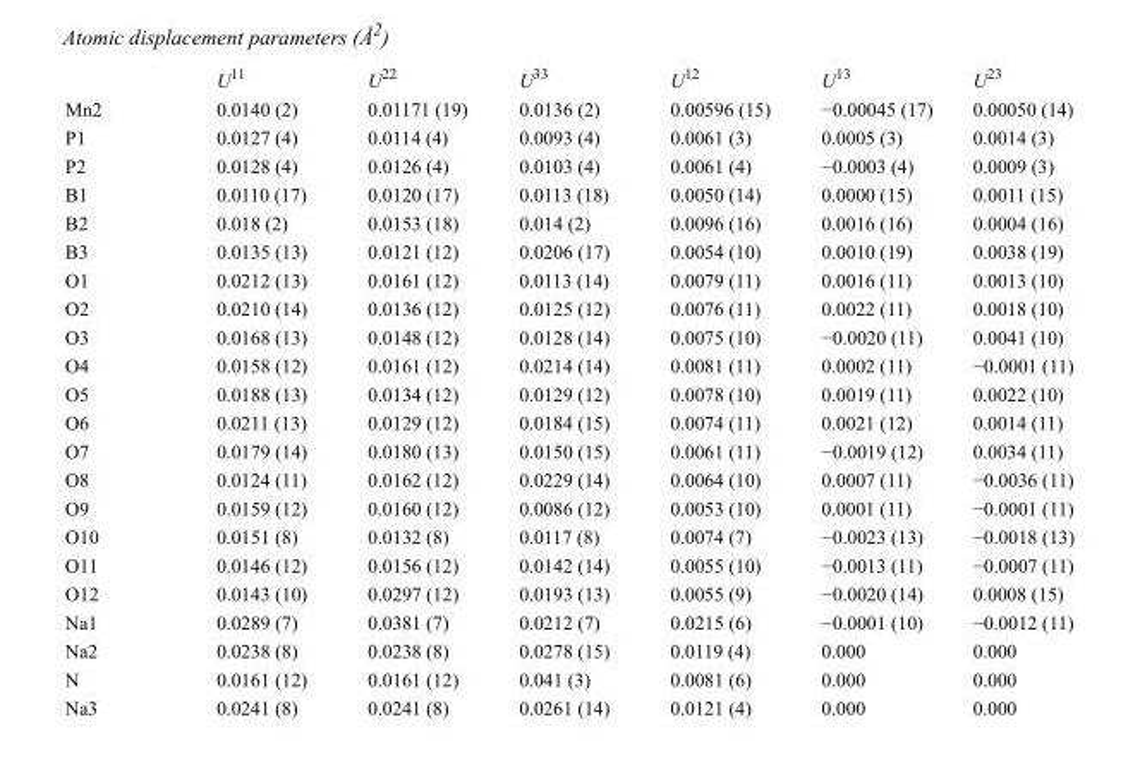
<table><thead><tr><td></td><td>U<sup>11</sup></td><td>U<sup>22</sup></td><td>U<sup>33</sup></td><td>U<sup>12</sup></td><td>U<sup>13</sup></td><td>U<sup>23</sup></td></tr></thead><tbody><tr><td>Mn2</td><td>0.0140 (2)</td><td>0.01171 (19)</td><td>0.0136 (2)</td><td>0.00596 (15)</td><td>−0.00045 (17)</td><td>0.00050 (14)</td></tr><tr><td>P1</td><td>0.0127 (4)</td><td>0.0114 (4)</td><td>0.0093 (4)</td><td>0.0061 (3)</td><td>0.0005 (3)</td><td>0.0014 (3)</td></tr><tr><td>P2</td><td>0.0128 (4)</td><td>0.0126 (4)</td><td>0.0103 (4)</td><td>0.0061 (4)</td><td>−0.0003 (4)</td><td>0.0009 (3)</td></tr><tr><td>B1</td><td>0.0110 (17)</td><td>0.0120 (17)</td><td>0.0113 (18)</td><td>0.0050 (14)</td><td>0.0000 (15)</td><td>0.0011 (15)</td></tr><tr><td>B2</td><td>0.018 (2)</td><td>0.0153 (18)</td><td>0.014 (2)</td><td>0.0096 (16)</td><td>0.0016 (16)</td><td>0.0004 (16)</td></tr><tr><td>B3</td><td>0.0135 (13)</td><td>0.0121 (12)</td><td>0.0206 (17)</td><td>0.0054 (10)</td><td>0.0010 (19)</td><td>0.0038 (19)</td></tr><tr><td>O1</td><td>0.0212 (13)</td><td>0.0161 (12)</td><td>0.0113 (14)</td><td>0.0079 (11)</td><td>0.0016 (11)</td><td>0.0013 (10)</td></tr><tr><td>O2</td><td>0.0210 (14)</td><td>0.0136 (12)</td><td>0.0125 (12)</td><td>0.0076 (11)</td><td>0.0022 (11)</td><td>0.0018 (10)</td></tr><tr><td>O3</td><td>0.0168 (13)</td><td>0.0148 (12)</td><td>0.0128 (14)</td><td>0.0075 (10)</td><td>−0.0020 (11)</td><td>0.0041 (10)</td></tr><tr><td>O4</td><td>0.0158 (12)</td><td>0.0161 (12)</td><td>0.0214 (14)</td><td>0.0081 (11)</td><td>0.0002 (11)</td><td>−0.0001 (11)</td></tr><tr><td>O5</td><td>0.0188 (13)</td><td>0.0134 (12)</td><td>0.0129 (12)</td><td>0.0078 (10)</td><td>0.0019 (11)</td><td>0.0022 (10)</td></tr><tr><td>O6</td><td>0.0211 (13)</td><td>0.0129 (12)</td><td>0.0184 (15)</td><td>0.0074 (11)</td><td>0.0021 (12)</td><td>0.0014 (11)</td></tr><tr><td>O7</td><td>0.0179 (14)</td><td>0.0180 (13)</td><td>0.0150 (15)</td><td>0.0061 (11)</td><td>−0.0019 (12)</td><td>0.0034 (11)</td></tr><tr><td>O8</td><td>0.0124 (11)</td><td>0.0162 (12)</td><td>0.0229 (14)</td><td>0.0064 (10)</td><td>0.0007 (11)</td><td>−0.0036 (11)</td></tr><tr><td>O9</td><td>0.0159 (12)</td><td>0.0160 (12)</td><td>0.0086 (12)</td><td>0.0053 (10)</td><td>0.0001 (11)</td><td>−0.0001 (11)</td></tr><tr><td>O10</td><td>0.0151 (8)</td><td>0.0132 (8)</td><td>0.0117 (8)</td><td>0.0074 (7)</td><td>−0.0023 (13)</td><td>−0.0018 (13)</td></tr><tr><td>O11</td><td>0.0146 (12)</td><td>0.0156 (12)</td><td>0.0142 (14)</td><td>0.0055 (10)</td><td>−0.0013 (11)</td><td>−0.0007 (11)</td></tr><tr><td>O12</td><td>0.0143 (10)</td><td>0.0297 (12)</td><td>0.0193 (13)</td><td>0.0055 (9)</td><td>−0.0020 (14)</td><td>0.0008 (15)</td></tr><tr><td>Na1</td><td>0.0289 (7)</td><td>0.0381 (7)</td><td>0.0212 (7)</td><td>0.0215 (6)</td><td>−0.0001 (10)</td><td>−0.0012 (11)</td></tr><tr><td>Na2</td><td>0.0238 (8)</td><td>0.0238 (8)</td><td>0.0278 (15)</td><td>0.0119 (4)</td><td>0.000</td><td>0.000</td></tr><tr><td>N</td><td>0.0161 (12)</td><td>0.0161 (12)</td><td>0.041 (3)</td><td>0.0081 (6)</td><td>0.000</td><td>0.000</td></tr><tr><td>Na3</td><td>0.0241 (8)</td><td>0.0241 (8)</td><td>0.0261 (14)</td><td>0.0121 (4)</td><td>0.000</td><td>0.000</td></tr></tbody></table>